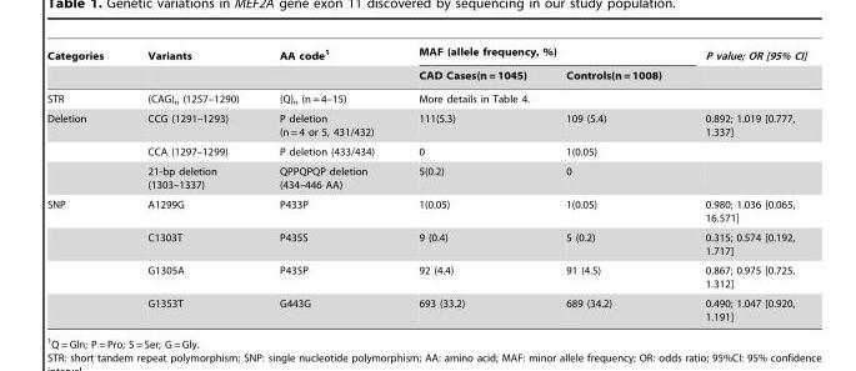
<table><thead><tr><td rowspan="2">Categories</td><td rowspan="2">Variants</td><td rowspan="2">AA code<sup>1</sup></td><td colspan="2">MAF (allele frequency, %)</td><td rowspan="2">P value; OR [95% CI]</td></tr><tr><td>CAD Cases(n = 1045)</td><td>Controls(n = 1008)</td></tr></thead><tbody><tr><td>STR</td><td>(CAG)<sub>n</sub> (1257–1290)</td><td>(Q)<sub>n</sub> (n = 4–15)</td><td colspan="3">More details in Table 4.</td></tr><tr><td rowspan="3">Deletion</td><td>CCG (1291–1293)</td><td>P deletion (n = 4 or 5, 431/432)</td><td>111(5.3)</td><td>109 (5.4)</td><td>0.892; 1.019 [0.777, 1.337]</td></tr><tr><td>CCA (1297–1299)</td><td>P deletion (433/434)</td><td>0</td><td>1(0.05)</td><td></td></tr><tr><td>21-bp deletion (1303–1337)</td><td>QPPQPQP deletion (434–446 AA)</td><td>5(0.2)</td><td>0</td><td></td></tr><tr><td rowspan="4">SNP</td><td>A1299G</td><td>P433P</td><td>1(0.05)</td><td>1(0.05)</td><td>0.980; 1.036 [0.065, 16.571]</td></tr><tr><td>C1303T</td><td>P435S</td><td>9 (0.4)</td><td>5 (0.2)</td><td>0.315; 0.574 [0.192, 1.717]</td></tr><tr><td>G1305A</td><td>P435P</td><td>92 (4.4)</td><td>91 (4.5)</td><td>0.867; 0.975 [0.725, 1.312]</td></tr><tr><td>G1353T</td><td>G443G</td><td>693 (33.2)</td><td>689 (34.2)</td><td>0.490; 1.047 [0.920, 1.191]</td></tr></tbody></table>